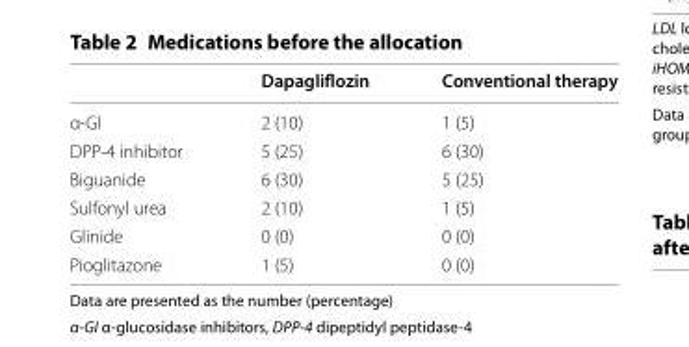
<table><thead><tr><td></td><td>Dapagliflozin</td><td>Conventional therapy</td></tr></thead><tbody><tr><td>α-GI</td><td>2 (10)</td><td>1 (5)</td></tr><tr><td>DPP-4 inhibitor</td><td>5 (25)</td><td>6 (30)</td></tr><tr><td>Biguanide</td><td>6 (30)</td><td>5 (25)</td></tr><tr><td>Sulfonyl urea</td><td>2 (10)</td><td>1 (5)</td></tr><tr><td>Glinide</td><td>0 (0)</td><td>0 (0)</td></tr><tr><td>Pioglitazone</td><td>1 (5)</td><td>0 (0)</td></tr></tbody></table>